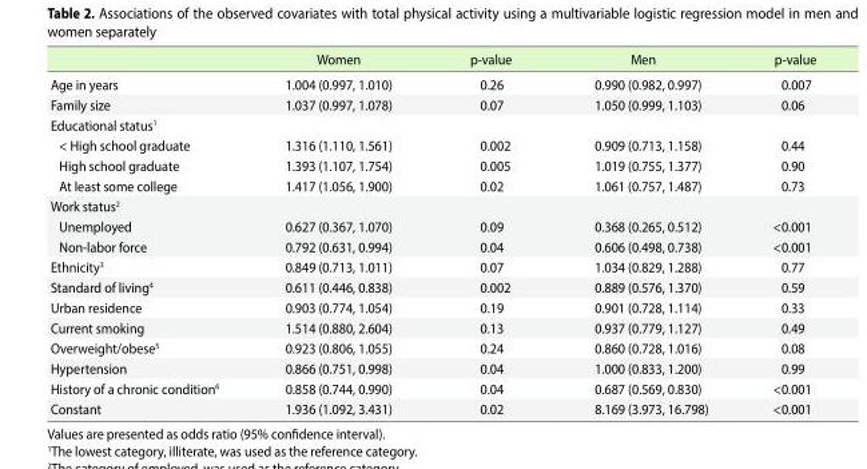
<table><thead><tr><td></td><td>Women</td><td>p-value</td><td>Men</td><td>p-value</td></tr></thead><tbody><tr><td>Age in years</td><td>1.004 (0.997, 1.010)</td><td>0.26</td><td>0.990 (0.982, 0.997)</td><td>0.007</td></tr><tr><td>Family size</td><td>1.037 (0.997, 1.078)</td><td>0.07</td><td>1.050 (0.999, 1.103)</td><td>0.06</td></tr><tr><td colspan="5">Educational status<sup>1</sup></td></tr><tr><td>&lt; High school graduate</td><td>1.316 (1.110, 1.561)</td><td>0.002</td><td>0.909 (0.713, 1.158)</td><td>0.44</td></tr><tr><td>High school graduate</td><td>1.393 (1.107, 1.754)</td><td>0.005</td><td>1.019 (0.755, 1.377)</td><td>0.90</td></tr><tr><td>At least some college</td><td>1.417 (1.056, 1.900)</td><td>0.02</td><td>1.061 (0.757, 1.487)</td><td>0.73</td></tr><tr><td colspan="5">Work status<sup>2</sup></td></tr><tr><td>Unemployed</td><td>0.627 (0.367, 1.070)</td><td>0.09</td><td>0.368 (0.265, 0.512)</td><td>&lt;0.001</td></tr><tr><td>Non-labor force</td><td>0.792 (0.631, 0.994)</td><td>0.04</td><td>0.606 (0.498, 0.738)</td><td>&lt;0.001</td></tr><tr><td>Ethnicity<sup>3</sup></td><td>0.849 (0.713, 1.011)</td><td>0.07</td><td>1.034 (0.829, 1.288)</td><td>0.77</td></tr><tr><td>Standard of living<sup>4</sup></td><td>0.611 (0.446, 0.838)</td><td>0.002</td><td>0.889 (0.576, 1.370)</td><td>0.59</td></tr><tr><td>Urban residence</td><td>0.903 (0.774, 1.054)</td><td>0.19</td><td>0.901 (0.728, 1.114)</td><td>0.33</td></tr><tr><td>Current smoking</td><td>1.514 (0.880, 2.604)</td><td>0.13</td><td>0.937 (0.779, 1.127)</td><td>0.49</td></tr><tr><td>Overweight/obese<sup>5</sup></td><td>0.923 (0.806, 1.055)</td><td>0.24</td><td>0.860 (0.728, 1.016)</td><td>0.08</td></tr><tr><td>Hypertension</td><td>0.866 (0.751, 0.998)</td><td>0.04</td><td>1.000 (0.833, 1.200)</td><td>0.99</td></tr><tr><td>History of a chronic condition<sup>6</sup></td><td>0.858 (0.744, 0.990)</td><td>0.04</td><td>0.687 (0.569, 0.830)</td><td>&lt;0.001</td></tr><tr><td>Constant</td><td>1.936 (1.092, 3.431)</td><td>0.02</td><td>8.169 (3.973, 16.798)</td><td>&lt;0.001</td></tr></tbody></table>